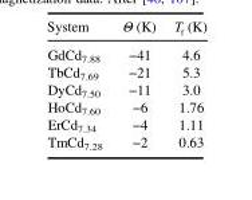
<table><tbody><tr><td>GdCd<sub>7.88</sub></td><td>−41</td><td>4.6</td></tr><tr><td>TbCd<sub>7.69</sub></td><td>−21</td><td>5.3</td></tr><tr><td>DyCd<sub>7.50</sub></td><td>−11</td><td>3.0</td></tr><tr><td>HoCd<sub>7.60</sub></td><td>−6</td><td>1.76</td></tr><tr><td>ErCd<sub>7.34</sub></td><td>−4</td><td>1.11</td></tr><tr><td>TmCd<sub>7.28</sub></td><td>−2</td><td>0.63</td></tr></tbody></table>